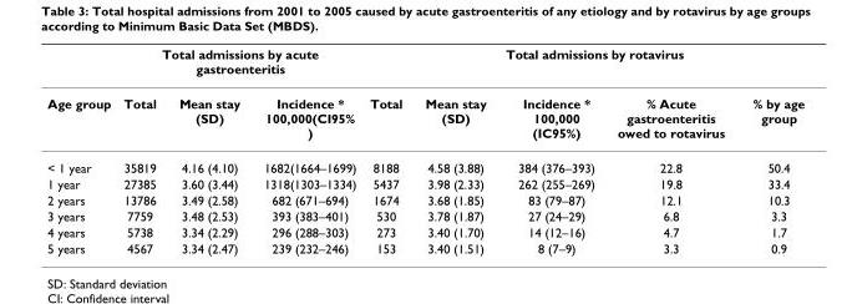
<table><thead><tr><td rowspan="2">Age group</td><td colspan="3">Total admissions by acute gastroenteritis</td><td colspan="5">Total admissions by rotavirus</td></tr><tr><td>Total</td><td>Mean stay (SD)</td><td>Incidence * 100,000(CI95% )</td><td>Total</td><td>Mean stay (SD)</td><td>Incidence * 100,000 (IC95%)</td><td>% Acute gastroenteritis owed to rotavirus</td><td>% by age group</td></tr></thead><tbody><tr><td>&lt; 1 year</td><td>35819</td><td>4.16 (4.10)</td><td>1682(1664–1699)</td><td>8188</td><td>4.58 (3.88)</td><td>384 (376–393)</td><td>22.8</td><td>50.4</td></tr><tr><td>1 year</td><td>27385</td><td>3.60 (3.44)</td><td>1318(1303–1334)</td><td>5437</td><td>3.98 (2.33)</td><td>262 (255–269)</td><td>19.8</td><td>33.4</td></tr><tr><td>2 years</td><td>13786</td><td>3.49 (2.58)</td><td>682 (671–694)</td><td>1674</td><td>3.68 (1.85)</td><td>83 (79–87)</td><td>12.1</td><td>10.3</td></tr><tr><td>3 years</td><td>7759</td><td>3.48 (2.53)</td><td>393 (383–401)</td><td>530</td><td>3.78 (1.87)</td><td>27 (24–29)</td><td>6.8</td><td>3.3</td></tr><tr><td>4 years</td><td>5738</td><td>3.34 (2.29)</td><td>296 (288–303)</td><td>273</td><td>3.40 (1.70)</td><td>14 (12–16)</td><td>4.7</td><td>1.7</td></tr><tr><td>5 years</td><td>4567</td><td>3.34 (2.47)</td><td>239 (232–246)</td><td>153</td><td>3.40 (1.51)</td><td>8 (7–9)</td><td>3.3</td><td>0.9</td></tr></tbody></table>